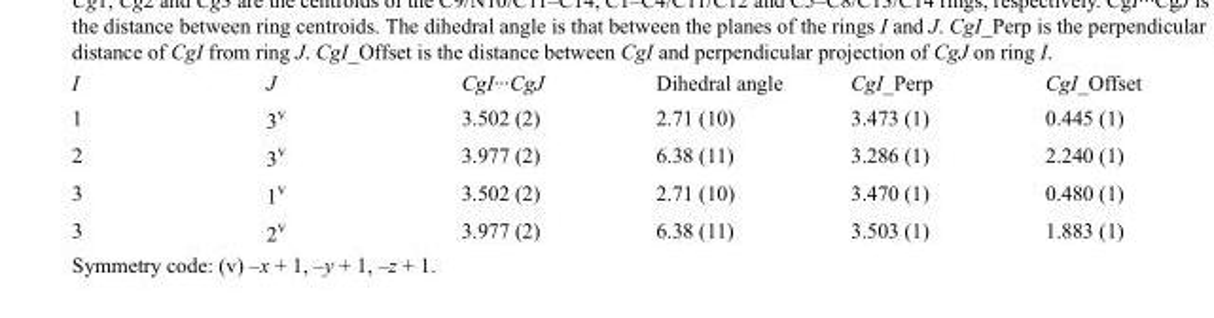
<table><tbody><tr><td>I</td><td>J</td><td>CgI···CgJ</td><td>Dihedral angle</td><td>CgI_Perp</td><td>CgI_Offset</td></tr><tr><td>1</td><td>3<sup>v</sup></td><td>3.502 (2)</td><td>2.71 (10)</td><td>3.473 (1)</td><td>0.445 (1)</td></tr><tr><td>2</td><td>3<sup>v</sup></td><td>3.977 (2)</td><td>6.38 (11)</td><td>3.286 (1)</td><td>2.240 (1)</td></tr><tr><td>3</td><td>1<sup>v</sup></td><td>3.502 (2)</td><td>2.71 (10)</td><td>3.470 (1)</td><td>0.480 (1)</td></tr><tr><td>3</td><td>2<sup>v</sup></td><td>3.977 (2)</td><td>6.38 (11)</td><td>3.503 (1)</td><td>1.883 (1)</td></tr></tbody></table>